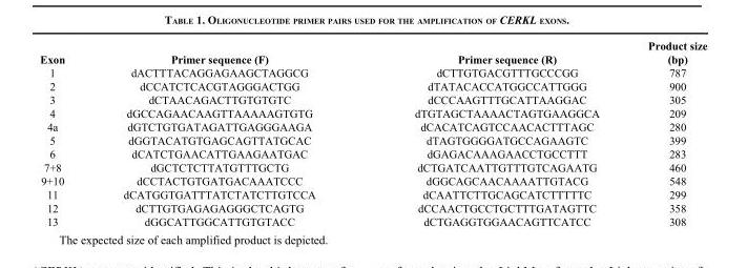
<table><thead><tr><td>Exon</td><td>Primer sequence (F)</td><td>Primer sequence (R)</td><td>Product size (bp)</td></tr></thead><tbody><tr><td>1</td><td>dACTTTACAGGAGAAGCTAGGCG</td><td>dCTTGTGACGTTTGCCCGG</td><td>787</td></tr><tr><td>2</td><td>dCCATCTCACGTAGGGACTGG</td><td>dTATACACCATGGCCATTGGG</td><td>900</td></tr><tr><td>3</td><td>dCTAACAGACTTGTGTGTC</td><td>dCCCAAGTTTGCATTAAGGAC</td><td>305</td></tr><tr><td>4</td><td>dGCCAGAACAAGTTAAAAAGTGTG</td><td>dTGTAGCTAAAACTAGTGAAGGCA</td><td>209</td></tr><tr><td>4a</td><td>dGTCTGTGATAGATTGAGGGAAGA</td><td>dCACATCAGTCCAACACTTTAGC</td><td>280</td></tr><tr><td>5</td><td>dGGTACATGTGAGCAGTTATGCAC</td><td>dTAGTGGGGATGCCAGAAGTC</td><td>399</td></tr><tr><td>6</td><td>dCATCTGAACATTGAAGAATGAC</td><td>dGAGACAAAGAACCTGCCTTT</td><td>283</td></tr><tr><td>7+8</td><td>dGCTCTCTTATGTTTGCTG</td><td>dCTGATCAATTGTTTGTCAGAATG</td><td>460</td></tr><tr><td>9+10</td><td>dCCTACTGTGATGACAAATCCC</td><td>dGGCAGCAACAAAATTGTACG</td><td>548</td></tr><tr><td>11</td><td>dCATGGTGATTTATCTATCTTGTCCA</td><td>dCAATTCTTGCAGCATCTTTTTC</td><td>299</td></tr><tr><td>12</td><td>dCTTGTGAGAGAGGGCTCAGTG</td><td>dCCAACTGCCTGCTTTGATAGTTC</td><td>358</td></tr><tr><td>13</td><td>dGGCATTGGCATTGTGTACC</td><td>dCTGAGGTGGAACAGTTCATCC</td><td>308</td></tr></tbody></table>